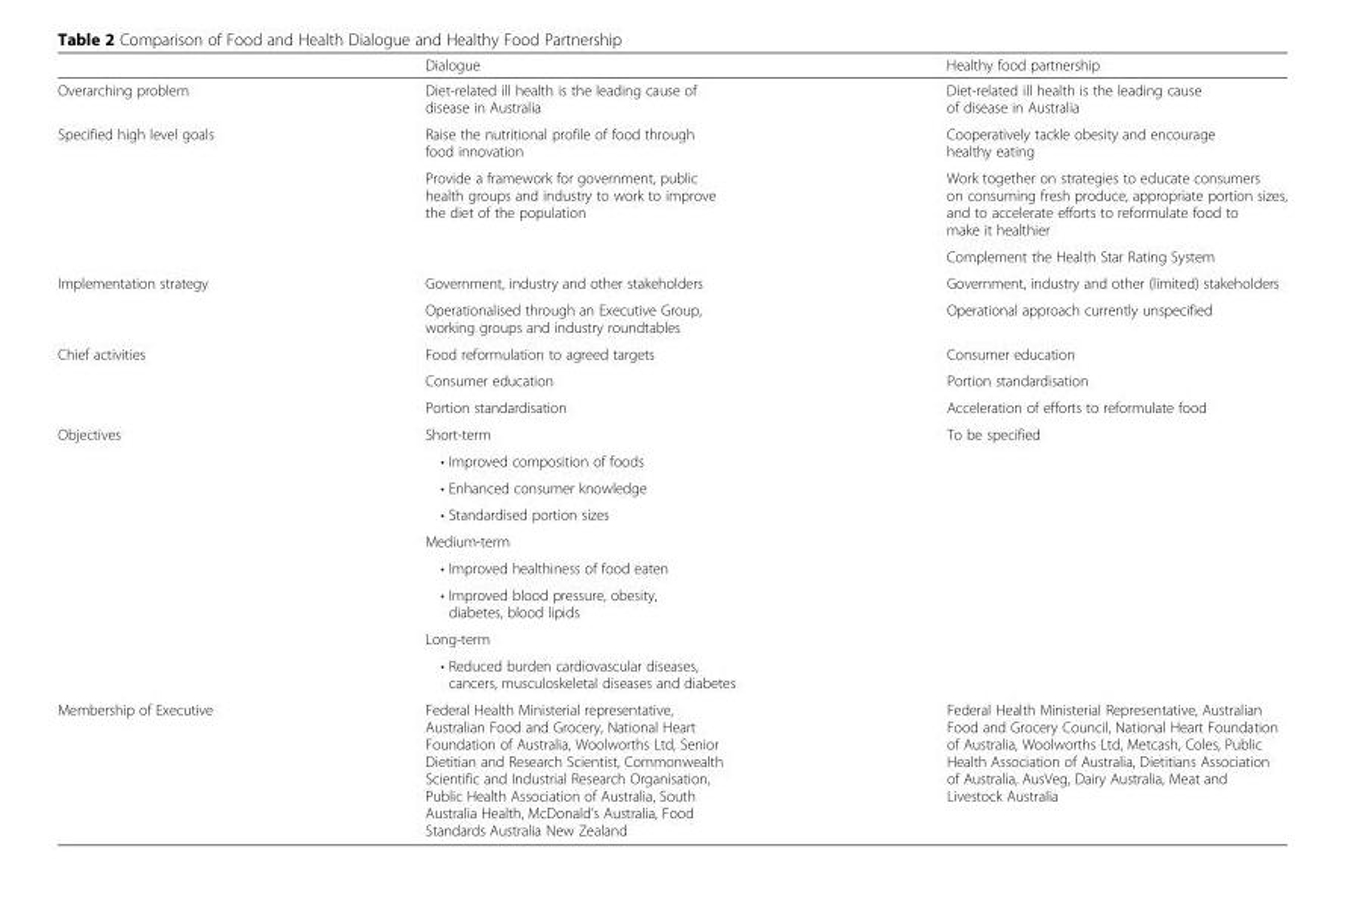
<table><thead><tr><td></td><td>Dialogue</td><td>Healthy food partnership</td></tr></thead><tbody><tr><td>Overarching problem</td><td>Diet-related ill health is the leading cause of disease in Australia</td><td>Diet-related ill health is the leading cause of disease in Australia</td></tr><tr><td rowspan="3">Specified high level goals</td><td>Raise the nutritional profile of food through food innovation</td><td>Cooperatively tackle obesity and encourage healthy eating</td></tr><tr><td rowspan="2">Provide a framework for government, public health groups and industry to work to improve the diet of the population</td><td>Work together on strategies to educate consumers on consuming fresh produce, appropriate portion sizes, and to accelerate efforts to reformulate food to make it healthier</td></tr><tr><td>Complement the Health Star Rating System</td></tr><tr><td rowspan="2">Implementation strategy</td><td>Government, industry and other stakeholders</td><td>Government, industry and other (limited) stakeholders</td></tr><tr><td>Operationalised through an Executive Group, working groups and industry roundtables</td><td>Operational approach currently unspecified</td></tr><tr><td rowspan="3">Chief activities</td><td>Food reformulation to agreed targets</td><td>Consumer education</td></tr><tr><td>Consumer education</td><td>Portion standardisation</td></tr><tr><td>Portion standardisation</td><td>Acceleration of efforts to reformulate food</td></tr><tr><td rowspan="9">Objectives</td><td>Short-term</td><td>To be specified</td></tr><tr><td>• Improved composition of foods</td><td></td></tr><tr><td>• Enhanced consumer knowledge</td><td></td></tr><tr><td>• Standardised portion sizes</td><td></td></tr><tr><td>Medium-term</td><td></td></tr><tr><td>• Improved healthiness of food eaten</td><td></td></tr><tr><td>• Improved blood pressure, obesity, diabetes, blood lipids</td><td></td></tr><tr><td>Long-term</td><td></td></tr><tr><td>• Reduced burden cardiovascular diseases, cancers, musculoskeletal diseases and diabetes</td><td></td></tr><tr><td>Membership of Executive</td><td>Federal Health Ministerial representative, Australian Food and Grocery, National Heart Foundation of Australia, Woolworths Ltd, Senior Dietitian and Research Scientist, Commonwealth Scientific and Industrial Research Organisation, Public Health Association of Australia, South Australia Health, McDonald’s Australia, Food Standards Australia New Zealand</td><td>Federal Health Ministerial Representative, Australian Food and Grocery Council, National Heart Foundation of Australia, Woolworths Ltd, Metcash, Coles, Public Health Association of Australia, Dietitians Association of Australia, AusVeg, Dairy Australia, Meat and Livestock Australia</td></tr></tbody></table>